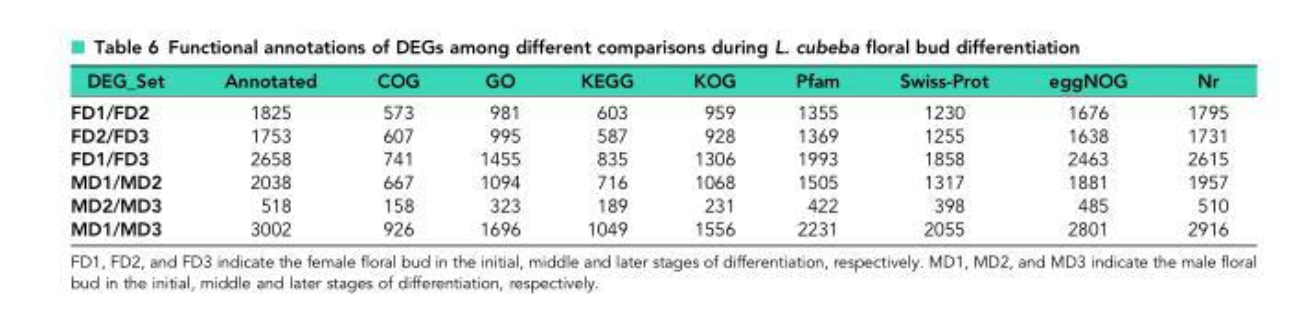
<table><thead><tr><td>DEG_Set</td><td>Annotated</td><td>COG</td><td>GO</td><td>KEGG</td><td>KOG</td><td>Pfam</td><td>Swiss-Prot</td><td>eggNOG</td><td>Nr</td></tr></thead><tbody><tr><td>FD1/FD2</td><td>1825</td><td>573</td><td>981</td><td>603</td><td>959</td><td>1355</td><td>1230</td><td>1676</td><td>1795</td></tr><tr><td>FD2/FD3</td><td>1753</td><td>607</td><td>995</td><td>587</td><td>928</td><td>1369</td><td>1255</td><td>1638</td><td>1731</td></tr><tr><td>FD1/FD3</td><td>2658</td><td>741</td><td>1455</td><td>835</td><td>1306</td><td>1993</td><td>1858</td><td>2463</td><td>2615</td></tr><tr><td>MD1/MD2</td><td>2038</td><td>667</td><td>1094</td><td>716</td><td>1068</td><td>1505</td><td>1317</td><td>1881</td><td>1957</td></tr><tr><td>MD2/MD3</td><td>518</td><td>158</td><td>323</td><td>189</td><td>231</td><td>422</td><td>398</td><td>485</td><td>510</td></tr><tr><td>MD1/MD3</td><td>3002</td><td>926</td><td>1696</td><td>1049</td><td>1556</td><td>2231</td><td>2055</td><td>2801</td><td>2916</td></tr></tbody></table>